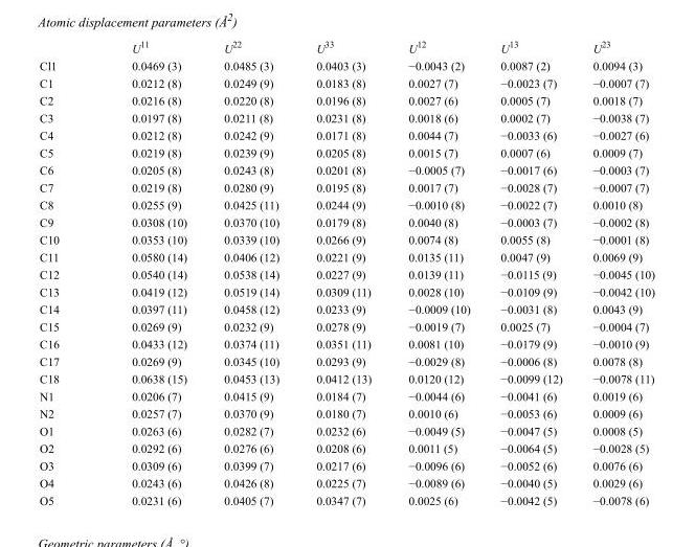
<table><thead><tr><td></td><td>U<sup>11</sup></td><td>U<sup>22</sup></td><td>U<sup>33</sup></td><td>U<sup>12</sup></td><td>U<sup>13</sup></td><td>U<sup>23</sup></td></tr></thead><tbody><tr><td>Cl1</td><td>0.0469 (3)</td><td>0.0485 (3)</td><td>0.0403 (3)</td><td>−0.0043 (2)</td><td>0.0087 (2)</td><td>0.0094 (3)</td></tr><tr><td>C1</td><td>0.0212 (8)</td><td>0.0249 (9)</td><td>0.0183 (8)</td><td>0.0027 (7)</td><td>−0.0023 (7)</td><td>−0.0007 (7)</td></tr><tr><td>C2</td><td>0.0216 (8)</td><td>0.0220 (8)</td><td>0.0196 (8)</td><td>0.0027 (6)</td><td>0.0005 (7)</td><td>0.0018 (7)</td></tr><tr><td>C3</td><td>0.0197 (8)</td><td>0.0211 (8)</td><td>0.0231 (8)</td><td>0.0018 (6)</td><td>0.0002 (7)</td><td>−0.0038 (7)</td></tr><tr><td>C4</td><td>0.0212 (8)</td><td>0.0242 (9)</td><td>0.0171 (8)</td><td>0.0044 (7)</td><td>−0.0033 (6)</td><td>−0.0027 (6)</td></tr><tr><td>C5</td><td>0.0219 (8)</td><td>0.0239 (9)</td><td>0.0205 (8)</td><td>0.0015 (7)</td><td>0.0007 (6)</td><td>0.0009 (7)</td></tr><tr><td>C6</td><td>0.0205 (8)</td><td>0.0243 (8)</td><td>0.0201 (8)</td><td>−0.0005 (7)</td><td>−0.0017 (6)</td><td>−0.0003 (7)</td></tr><tr><td>C7</td><td>0.0219 (8)</td><td>0.0280 (9)</td><td>0.0195 (8)</td><td>0.0017 (7)</td><td>−0.0028 (7)</td><td>−0.0007 (7)</td></tr><tr><td>C8</td><td>0.0255 (9)</td><td>0.0425 (11)</td><td>0.0244 (9)</td><td>−0.0010 (8)</td><td>−0.0022 (7)</td><td>0.0010 (8)</td></tr><tr><td>C9</td><td>0.0308 (10)</td><td>0.0370 (10)</td><td>0.0179 (8)</td><td>0.0040 (8)</td><td>−0.0003 (7)</td><td>−0.0002 (8)</td></tr><tr><td>C10</td><td>0.0353 (10)</td><td>0.0339 (10)</td><td>0.0266 (9)</td><td>0.0074 (8)</td><td>0.0055 (8)</td><td>−0.0001 (8)</td></tr><tr><td>C11</td><td>0.0580 (14)</td><td>0.0406 (12)</td><td>0.0221 (9)</td><td>0.0135 (11)</td><td>0.0047 (9)</td><td>0.0069 (9)</td></tr><tr><td>C12</td><td>0.0540 (14)</td><td>0.0538 (14)</td><td>0.0227 (9)</td><td>0.0139 (11)</td><td>−0.0115 (9)</td><td>−0.0045 (10)</td></tr><tr><td>C13</td><td>0.0419 (12)</td><td>0.0519 (14)</td><td>0.0309 (11)</td><td>0.0028 (10)</td><td>−0.0109 (9)</td><td>−0.0042 (10)</td></tr><tr><td>C14</td><td>0.0397 (11)</td><td>0.0458 (12)</td><td>0.0233 (9)</td><td>−0.0009 (10)</td><td>−0.0031 (8)</td><td>0.0043 (9)</td></tr><tr><td>C15</td><td>0.0269 (9)</td><td>0.0232 (9)</td><td>0.0278 (9)</td><td>−0.0019 (7)</td><td>0.0025 (7)</td><td>−0.0004 (7)</td></tr><tr><td>C16</td><td>0.0433 (12)</td><td>0.0374 (11)</td><td>0.0351 (11)</td><td>0.0081 (10)</td><td>−0.0179 (9)</td><td>−0.0010 (9)</td></tr><tr><td>C17</td><td>0.0269 (9)</td><td>0.0345 (10)</td><td>0.0293 (9)</td><td>−0.0029 (8)</td><td>−0.0006 (8)</td><td>0.0078 (8)</td></tr><tr><td>C18</td><td>0.0638 (15)</td><td>0.0453 (13)</td><td>0.0412 (13)</td><td>0.0120 (12)</td><td>−0.0099 (12)</td><td>−0.0078 (11)</td></tr><tr><td>N1</td><td>0.0206 (7)</td><td>0.0415 (9)</td><td>0.0184 (7)</td><td>−0.0044 (6)</td><td>−0.0041 (6)</td><td>0.0019 (6)</td></tr><tr><td>N2</td><td>0.0257 (7)</td><td>0.0370 (9)</td><td>0.0180 (7)</td><td>0.0010 (6)</td><td>−0.0053 (6)</td><td>0.0009 (6)</td></tr><tr><td>O1</td><td>0.0263 (6)</td><td>0.0282 (7)</td><td>0.0232 (6)</td><td>−0.0049 (5)</td><td>−0.0047 (5)</td><td>0.0008 (5)</td></tr><tr><td>O2</td><td>0.0292 (6)</td><td>0.0276 (6)</td><td>0.0208 (6)</td><td>0.0011 (5)</td><td>−0.0064 (5)</td><td>−0.0028 (5)</td></tr><tr><td>O3</td><td>0.0309 (6)</td><td>0.0399 (7)</td><td>0.0217 (6)</td><td>−0.0096 (6)</td><td>−0.0052 (6)</td><td>0.0076 (6)</td></tr><tr><td>O4</td><td>0.0243 (6)</td><td>0.0426 (8)</td><td>0.0225 (7)</td><td>−0.0089 (6)</td><td>−0.0040 (5)</td><td>0.0029 (6)</td></tr><tr><td>O5</td><td>0.0231 (6)</td><td>0.0405 (7)</td><td>0.0347 (7)</td><td>0.0025 (6)</td><td>−0.0042 (5)</td><td>−0.0078 (6)</td></tr></tbody></table>